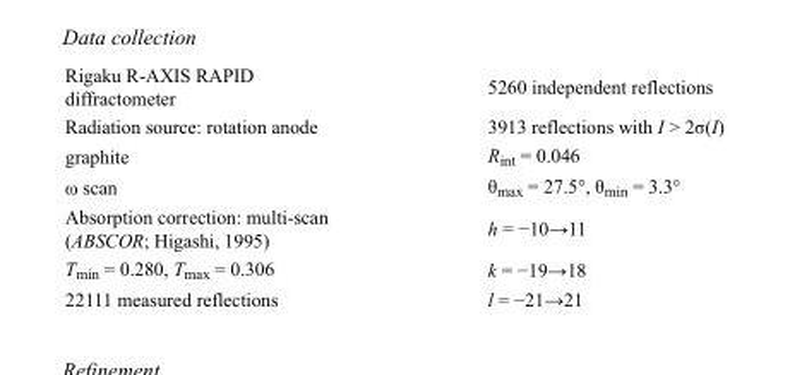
<table><tbody><tr><td>Rigaku R-AXIS RAPID diffractometer</td><td>5260 independent reflections</td></tr><tr><td>Radiation source: rotation anode</td><td>3913 reflections with I &gt; 2σ(I)</td></tr><tr><td>graphite</td><td>R<sub>int</sub> = 0.046</td></tr><tr><td>ω scan</td><td>θ<sub>max</sub> = 27.5°, θ<sub>min</sub> = 3.3°</td></tr><tr><td>Absorption correction: multi-scan (ABSCOR; Higashi, 1995)</td><td>h = −10→11</td></tr><tr><td>T<sub>min</sub> = 0.280, T<sub>max</sub> = 0.306</td><td>k = −19→18</td></tr><tr><td>22111 measured reflections</td><td>l = −21→21</td></tr></tbody></table>